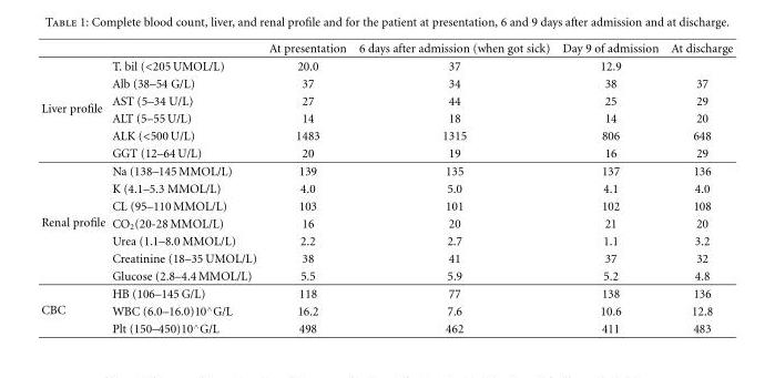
<table><thead><tr><td></td><td></td><td>At presentation</td><td>6 days after admission (when got sick)</td><td>Day 9 of admission</td><td>At discharge</td></tr></thead><tbody><tr><td rowspan="6">Liver profile</td><td>T. bil (&lt;205 UMOL/L)</td><td>20.0</td><td>37</td><td>12.9</td><td></td></tr><tr><td>Alb (38–54 G/L)</td><td>37</td><td>34</td><td>38</td><td>37</td></tr><tr><td>AST (5–34 U/L)</td><td>27</td><td>44</td><td>25</td><td>29</td></tr><tr><td>ALT (5–55 U/L)</td><td>14</td><td>18</td><td>14</td><td>20</td></tr><tr><td>ALK (&lt;500 U/L)</td><td>1483</td><td>1315</td><td>806</td><td>648</td></tr><tr><td>GGT (12–64 U/L)</td><td>20</td><td>19</td><td>16</td><td>29</td></tr><tr><td rowspan="7">Renal profile</td><td>Na (138–145 MMOL/L)</td><td>139</td><td>135</td><td>137</td><td>136</td></tr><tr><td>K (4.1–5.3 MMOL/L)</td><td>4.0</td><td>5.0</td><td>4.1</td><td>4.0</td></tr><tr><td>CL (95–110 MMOL/L)</td><td>103</td><td>101</td><td>102</td><td>108</td></tr><tr><td>CO<sub>2</sub>(20-28 MMOL/L)</td><td>16</td><td>20</td><td>21</td><td>20</td></tr><tr><td>Urea (1.1–8.0 MMOL/L)</td><td>2.2</td><td>2.7</td><td>1.1</td><td>3.2</td></tr><tr><td>Creatinine (18–35 UMOL/L)</td><td>38</td><td>41</td><td>37</td><td>32</td></tr><tr><td>Glucose (2.8–4.4 MMOL/L)</td><td>5.5</td><td>5.9</td><td>5.2</td><td>4.8</td></tr><tr><td rowspan="3">CBC</td><td>HB (106–145 G/L)</td><td>118</td><td>77</td><td>138</td><td>136</td></tr><tr><td>WBC (6.0–16.0)10<sup>∧</sup>G/L</td><td>16.2</td><td>7.6</td><td>10.6</td><td>12.8</td></tr><tr><td>Plt (150–450)10<sup>∧</sup>G/L</td><td>498</td><td>462</td><td>411</td><td>483</td></tr></tbody></table>